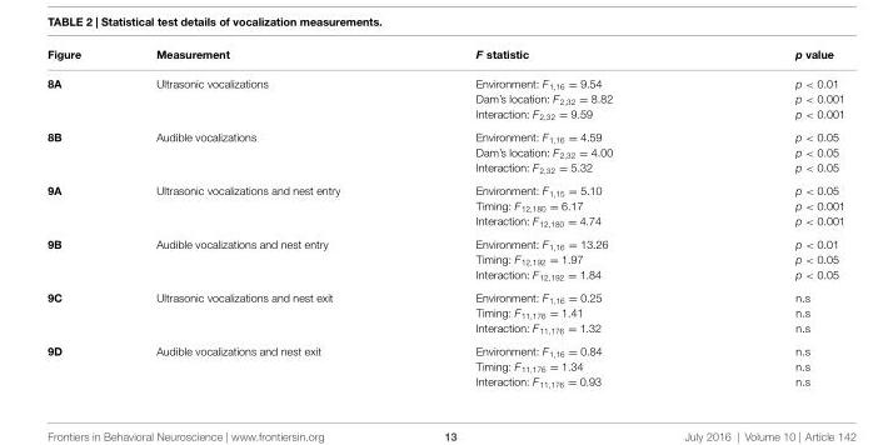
<table><thead><tr><td>Figure</td><td>Measurement</td><td>F statistic</td><td>p value</td></tr></thead><tbody><tr><td>8A</td><td>Ultrasonic vocalizations</td><td>Environment: F<sub>1,16</sub> = 9.54 Dam’s location: F<sub>2,32</sub> = 8.82 Interaction: F<sub>2,32</sub> = 9.59</td><td>p &lt; 0.01 p &lt; 0.001 p &lt; 0.001</td></tr><tr><td>8B</td><td>Audible vocalizations</td><td>Environment: F<sub>1,16</sub> = 4.59 Dam’s location: F<sub>2,32</sub> = 4.00 Interaction: F<sub>2,32</sub> = 5.32</td><td>p &lt; 0.05 p &lt; 0.05 p &lt; 0.05</td></tr><tr><td>9A</td><td>Ultrasonic vocalizations and nest entry</td><td>Environment: F<sub>1,15</sub> = 5.10 Timing: F<sub>12,180</sub> = 6.17 Interaction: F<sub>12,180</sub> = 4.74</td><td>p &lt; 0.05 p &lt; 0.001 p &lt; 0.001</td></tr><tr><td>9B</td><td>Audible vocalizations and nest entry</td><td>Environment: F<sub>1,16</sub> = 13.26 Timing: F<sub>12,192</sub> = 1.97 Interaction: F<sub>12,192</sub> = 1.84</td><td>p &lt; 0.01 p &lt; 0.05 p &lt; 0.05</td></tr><tr><td>9C</td><td>Ultrasonic vocalizations and nest exit</td><td>Environment: F<sub>1,16</sub> = 0.25 Timing: F<sub>11,176</sub> = 1.41 Interaction: F<sub>11,176</sub> = 1.32</td><td>n.s n.s n.s</td></tr><tr><td>9D</td><td>Audible vocalizations and nest exit</td><td>Environment: F<sub>1,16</sub> = 0.84 Timing: F<sub>11,176</sub> = 1.34 Interaction: F<sub>11,176</sub> = 0.93</td><td>n.s n.s n.s</td></tr></tbody></table>